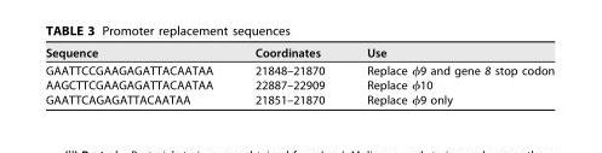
<table><thead><tr><td>Sequence</td><td>Coordinates</td><td>Use</td></tr></thead><tbody><tr><td>GAATTCCGAAGAGATTACAATAA</td><td>21848–21870</td><td>Replace ϕ9 and gene 8 stop codon</td></tr><tr><td>AAGCTTCGAAGAGATTACAATAA</td><td>22887–22909</td><td>Replace ϕ10</td></tr><tr><td>GAATTCAGAGATTACAATAA</td><td>21851–21870</td><td>Replace ϕ9 only</td></tr></tbody></table>